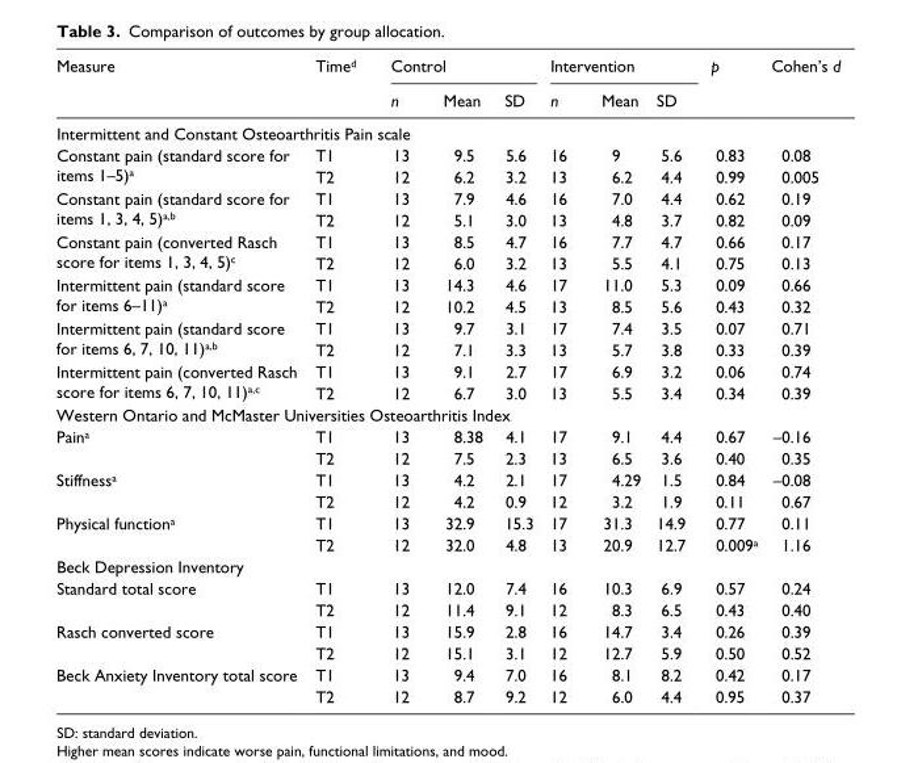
<table><thead><tr><td rowspan="2">Measure</td><td rowspan="2">Time<sup>d</sup></td><td colspan="3">Control</td><td colspan="3">Intervention</td><td rowspan="2">p</td><td rowspan="2">Cohen’s d</td></tr><tr><td>n</td><td>Mean</td><td>SD</td><td>n</td><td>Mean</td><td>SD</td></tr></thead><tbody><tr><td colspan="10">Intermittent and Constant Osteoarthritis Pain scale</td></tr><tr><td rowspan="2">Constant pain (standard score for items 1–5)<sup>a</sup></td><td>T1</td><td>13</td><td>9.5</td><td>5.6</td><td>16</td><td>9</td><td>5.6</td><td>0.83</td><td>0.08</td></tr><tr><td>T2</td><td>12</td><td>6.2</td><td>3.2</td><td>13</td><td>6.2</td><td>4.4</td><td>0.99</td><td>0.005</td></tr><tr><td rowspan="2">Constant pain (standard score for items 1, 3, 4, 5)<sup>a,b</sup></td><td>T1</td><td>13</td><td>7.9</td><td>4.6</td><td>16</td><td>7.0</td><td>4.4</td><td>0.62</td><td>0.19</td></tr><tr><td>T2</td><td>12</td><td>5.1</td><td>3.0</td><td>13</td><td>4.8</td><td>3.7</td><td>0.82</td><td>0.09</td></tr><tr><td rowspan="2">Constant pain (converted Rasch score for items 1, 3, 4, 5)<sup>c</sup></td><td>T1</td><td>13</td><td>8.5</td><td>4.7</td><td>16</td><td>7.7</td><td>4.7</td><td>0.66</td><td>0.17</td></tr><tr><td>T2</td><td>12</td><td>6.0</td><td>3.2</td><td>13</td><td>5.5</td><td>4.1</td><td>0.75</td><td>0.13</td></tr><tr><td rowspan="2">Intermittent pain (standard score for items 6–11)<sup>a</sup></td><td>T1</td><td>13</td><td>14.3</td><td>4.6</td><td>17</td><td>11.0</td><td>5.3</td><td>0.09</td><td>0.66</td></tr><tr><td>T2</td><td>12</td><td>10.2</td><td>4.5</td><td>13</td><td>8.5</td><td>5.6</td><td>0.43</td><td>0.32</td></tr><tr><td rowspan="2">Intermittent pain (standard score for items 6, 7, 10, 11)<sup>a,b</sup></td><td>T1</td><td>13</td><td>9.7</td><td>3.1</td><td>17</td><td>7.4</td><td>3.5</td><td>0.07</td><td>0.71</td></tr><tr><td>T2</td><td>12</td><td>7.1</td><td>3.3</td><td>13</td><td>5.7</td><td>3.8</td><td>0.33</td><td>0.39</td></tr><tr><td rowspan="2">Intermittent pain (converted Rasch score for items 6, 7, 10, 11)<sup>a,c</sup></td><td>T1</td><td>13</td><td>9.1</td><td>2.7</td><td>17</td><td>6.9</td><td>3.2</td><td>0.06</td><td>0.74</td></tr><tr><td>T2</td><td>12</td><td>6.7</td><td>3.0</td><td>13</td><td>5.5</td><td>3.4</td><td>0.34</td><td>0.39</td></tr><tr><td colspan="10">Western Ontario and McMaster Universities Osteoarthritis Index</td></tr><tr><td rowspan="2">Pain<sup>a</sup></td><td>T1</td><td>13</td><td>8.38</td><td>4.1</td><td>17</td><td>9.1</td><td>4.4</td><td>0.67</td><td>–0.16</td></tr><tr><td>T2</td><td>12</td><td>7.5</td><td>2.3</td><td>13</td><td>6.5</td><td>3.6</td><td>0.40</td><td>0.35</td></tr><tr><td rowspan="2">Stiffness<sup>a</sup></td><td>T1</td><td>13</td><td>4.2</td><td>2.1</td><td>17</td><td>4.29</td><td>1.5</td><td>0.84</td><td>–0.08</td></tr><tr><td>T2</td><td>12</td><td>4.2</td><td>0.9</td><td>12</td><td>3.2</td><td>1.9</td><td>0.11</td><td>0.67</td></tr><tr><td rowspan="2">Physical function<sup>a</sup></td><td>T1</td><td>13</td><td>32.9</td><td>15.3</td><td>17</td><td>31.3</td><td>14.9</td><td>0.77</td><td>0.11</td></tr><tr><td>T2</td><td>12</td><td>32.0</td><td>4.8</td><td>13</td><td>20.9</td><td>12.7</td><td>0.009<sup>a</sup></td><td>1.16</td></tr><tr><td colspan="10">Beck Depression Inventory</td></tr><tr><td rowspan="2">Standard total score</td><td>T1</td><td>13</td><td>12.0</td><td>7.4</td><td>16</td><td>10.3</td><td>6.9</td><td>0.57</td><td>0.24</td></tr><tr><td>T2</td><td>12</td><td>11.4</td><td>9.1</td><td>12</td><td>8.3</td><td>6.5</td><td>0.43</td><td>0.40</td></tr><tr><td rowspan="2">Rasch converted score</td><td>T1</td><td>13</td><td>15.9</td><td>2.8</td><td>16</td><td>14.7</td><td>3.4</td><td>0.26</td><td>0.39</td></tr><tr><td>T2</td><td>12</td><td>15.1</td><td>3.1</td><td>12</td><td>12.7</td><td>5.9</td><td>0.50</td><td>0.52</td></tr><tr><td rowspan="2">Beck Anxiety Inventory total score</td><td>T1</td><td>13</td><td>9.4</td><td>7.0</td><td>16</td><td>8.1</td><td>8.2</td><td>0.42</td><td>0.17</td></tr><tr><td>T2</td><td>12</td><td>8.7</td><td>9.2</td><td>12</td><td>6.0</td><td>4.4</td><td>0.95</td><td>0.37</td></tr></tbody></table>